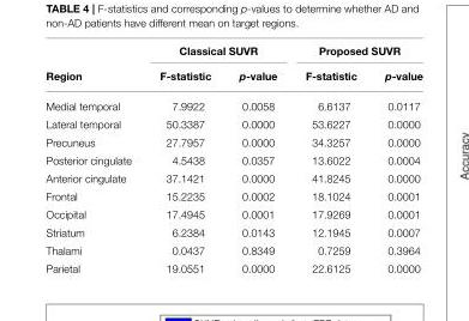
<table><thead><tr><td rowspan="2">Region</td><td colspan="2">Classical SUVR</td><td colspan="2">Proposed SUVR</td></tr><tr><td>F-statistic</td><td>p-value</td><td>F-statistic</td><td>p-value</td></tr></thead><tbody><tr><td>Medial temporal</td><td>7.9922</td><td>0.0058</td><td>6.6137</td><td>0.0117</td></tr><tr><td>Lateral temporal</td><td>50.3387</td><td>0.0000</td><td>53.6227</td><td>0.0000</td></tr><tr><td>Precuneus</td><td>27.7957</td><td>0.0000</td><td>34.3257</td><td>0.0000</td></tr><tr><td>Posterior cingulate</td><td>4.5438</td><td>0.0357</td><td>13.6022</td><td>0.0004</td></tr><tr><td>Anterior cingulate</td><td>37.1421</td><td>0.0000</td><td>41.8245</td><td>0.0000</td></tr><tr><td>Frontal</td><td>15.2235</td><td>0.0002</td><td>18.1024</td><td>0.0001</td></tr><tr><td>Occipital</td><td>17.4945</td><td>0.0001</td><td>17.9269</td><td>0.0001</td></tr><tr><td>Striatum</td><td>6.2384</td><td>0.0143</td><td>12.1945</td><td>0.0007</td></tr><tr><td>Thalami</td><td>0.0437</td><td>0.8349</td><td>0.7259</td><td>0.3964</td></tr><tr><td>Parietal</td><td>19.0551</td><td>0.0000</td><td>22.6125</td><td>0.0000</td></tr></tbody></table>